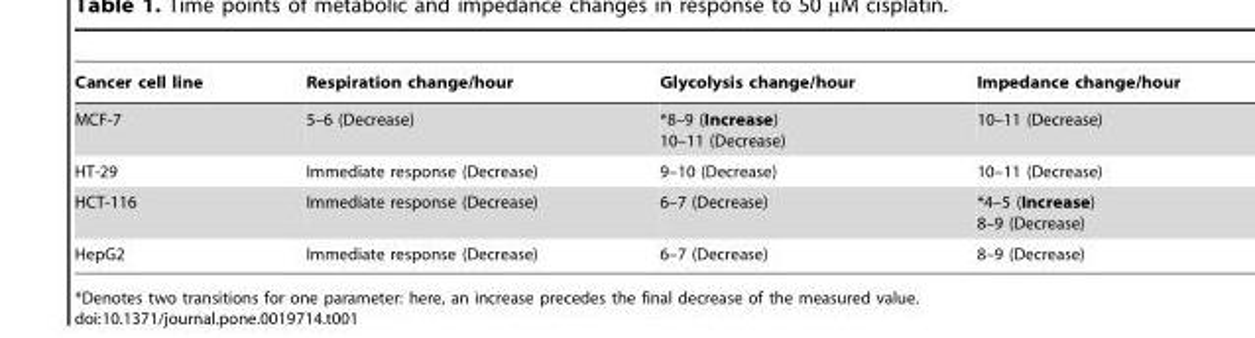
<table><thead><tr><td>Cancer cell line</td><td>Respiration change/hour</td><td>Glycolysis change/hour</td><td>Impedance change/hour</td></tr></thead><tbody><tr><td>MCF-7</td><td>5–6 (Decrease)</td><td>*8–9 (Increase) 10–11 (Decrease)</td><td>10–11 (Decrease)</td></tr><tr><td>HT-29</td><td>Immediate response (Decrease)</td><td>9–10 (Decrease)</td><td>10–11 (Decrease)</td></tr><tr><td>HCT-116</td><td>Immediate response (Decrease)</td><td>6–7 (Decrease)</td><td>*4–5 (Increase) 8–9 (Decrease)</td></tr><tr><td>HepG2</td><td>Immediate response (Decrease)</td><td>6–7 (Decrease)</td><td>8–9 (Decrease)</td></tr></tbody></table>